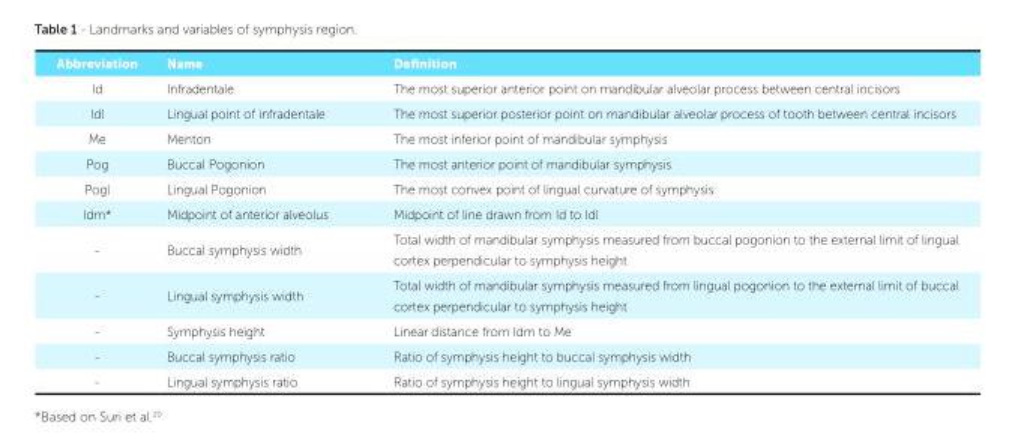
<table><tbody><tr><td>Abbreviation</td><td>Name</td><td>Defi nition</td></tr><tr><td>Id</td><td>Infradentale</td><td>The most superior anterior point on mandibular alveolar process between central incisors</td></tr><tr><td>Idl</td><td>Lingual point of infradentale</td><td>The most superior posterior point on mandibular alveolar process of tooth between central incisors</td></tr><tr><td>Me</td><td>Menton</td><td>The most inferior point of mandibular symphysis</td></tr><tr><td>Pog</td><td>Buccal Pogonion</td><td>The most anterior point of mandibular symphysis</td></tr><tr><td>Pogl</td><td>Lingual Pogonion</td><td>The most convex point of lingual curvature of symphysis</td></tr><tr><td>Idm*</td><td>Midpoint of anterior alveolus</td><td>Midpoint of line drawn from Id to Idl</td></tr><tr><td>-</td><td>Buccal symphysis width</td><td>Total width of mandibular symphysis measured from buccal pogonion to the external limit of lingual cortex perpendicular to symphysis height</td></tr><tr><td>-</td><td>Lingual symphysis width</td><td>Total width of mandibular symphysis measured from lingual pogonion to the external limit of buccal cortex perpendicular to symphysis height</td></tr><tr><td>-</td><td>Symphysis height</td><td>Linear distance from Idm to Me</td></tr><tr><td>-</td><td>Buccal symphysis ratio</td><td>Ratio of symphysis height to buccal symphysis width</td></tr><tr><td>-</td><td>Lingual symphysis ratio</td><td>Ratio of symphysis height to lingual symphysis width</td></tr></tbody></table>